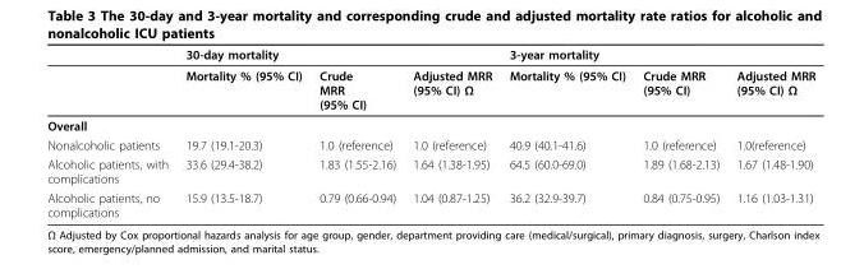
<table><thead><tr><td rowspan="2"></td><td colspan="3">30-day mortality</td><td colspan="3">3-year mortality</td></tr><tr><td>Mortality % (95% CI)</td><td>Crude MRR (95% CI)</td><td>Adjusted MRR (95% CI) Ω</td><td>Mortality % (95% CI)</td><td>Crude MRR (95% CI)</td><td>Adjusted MRR (95% CI) Ω</td></tr></thead><tbody><tr><td colspan="7">Overall</td></tr><tr><td>Nonalcoholic patients</td><td>19.7 (19.1-20.3)</td><td>1.0 (reference)</td><td>1.0 (reference)</td><td>40.9 (40.1-41.6)</td><td>1.0 (reference)</td><td>1.0(reference)</td></tr><tr><td>Alcoholic patients, with complications</td><td>33.6 (29.4-38.2)</td><td>1.83 (1.55-2.16)</td><td>1.64 (1.38-1.95)</td><td>64.5 (60.0-69.0)</td><td>1.89 (1.68-2.13)</td><td>1.67 (1.48-1.90)</td></tr><tr><td>Alcoholic patients, no complications</td><td>15.9 (13.5-18.7)</td><td>0.79 (0.66-0.94)</td><td>1.04 (0.87-1.25)</td><td>36.2 (32.9-39.7)</td><td>0.84 (0.75-0.95)</td><td>1.16 (1.03-1.31)</td></tr></tbody></table>